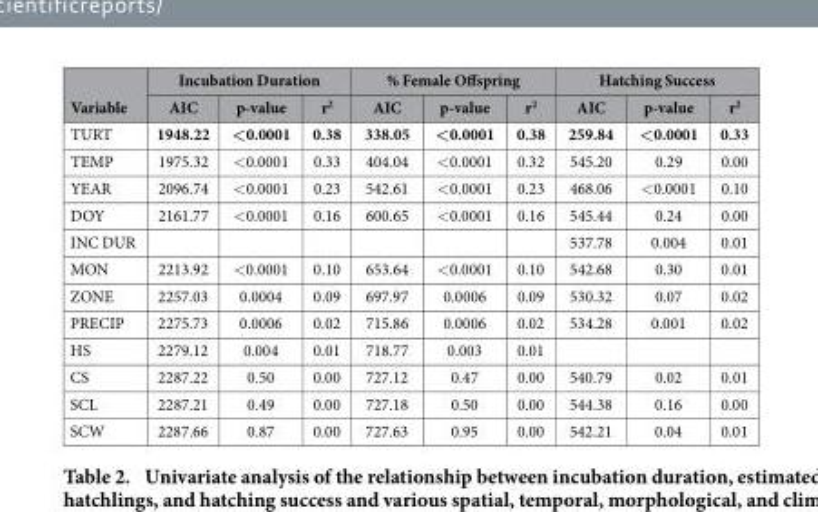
<table><thead><tr><td rowspan="2">Variable</td><td colspan="3">Incubation Duration</td><td colspan="3">% Female Offspring</td><td colspan="3">Hatching Success</td></tr><tr><td>AIC</td><td>p-value</td><td>r<sup>2</sup></td><td>AIC</td><td>p-value</td><td>r<sup>2</sup></td><td>AIC</td><td>p-value</td><td>r<sup>2</sup></td></tr></thead><tbody><tr><td>TURT</td><td>1948.22</td><td>&lt;0.0001</td><td>0.38</td><td>338.05</td><td>&lt;0.0001</td><td>0.38</td><td>259.84</td><td>&lt;0.0001</td><td>0.33</td></tr><tr><td>TEMP</td><td>1975.32</td><td>&lt; 0.0001</td><td>0.33</td><td>404.04</td><td>&lt; 0.0001</td><td>0.32</td><td>545.20</td><td>0.29</td><td>0.00</td></tr><tr><td>YEAR</td><td>2096.74</td><td>&lt; 0.0001</td><td>0.23</td><td>542.61</td><td>&lt; 0.0001</td><td>0.23</td><td>468.06</td><td>&lt; 0.0001</td><td>0.10</td></tr><tr><td>DOY</td><td>2161.77</td><td>&lt; 0.0001</td><td>0.16</td><td>600.65</td><td>&lt; 0.0001</td><td>0.16</td><td>545.44</td><td>0.24</td><td>0.00</td></tr><tr><td>INC DUR</td><td></td><td></td><td></td><td></td><td></td><td></td><td>537.78</td><td>0.004</td><td>0.01</td></tr><tr><td>MON</td><td>2213.92</td><td>&lt; 0.0001</td><td>0.10</td><td>653.64</td><td>&lt; 0.0001</td><td>0.10</td><td>542.68</td><td>0.30</td><td>0.01</td></tr><tr><td>ZONE</td><td>2257.03</td><td>0.0004</td><td>0.09</td><td>697.97</td><td>0.0006</td><td>0.09</td><td>530.32</td><td>0.07</td><td>0.02</td></tr><tr><td>PRECIP</td><td>2275.73</td><td>0.0006</td><td>0.02</td><td>715.86</td><td>0.0006</td><td>0.02</td><td>534.28</td><td>0.001</td><td>0.02</td></tr><tr><td>HS</td><td>2279.12</td><td>0.004</td><td>0.01</td><td>718.77</td><td>0.003</td><td>0.01</td><td></td><td></td><td></td></tr><tr><td>CS</td><td>2287.22</td><td>0.50</td><td>0.00</td><td>727.12</td><td>0.47</td><td>0.00</td><td>540.79</td><td>0.02</td><td>0.01</td></tr><tr><td>SCL</td><td>2287.21</td><td>0.49</td><td>0.00</td><td>727.18</td><td>0.50</td><td>0.00</td><td>544.38</td><td>0.16</td><td>0.00</td></tr><tr><td>SCW</td><td>2287.66</td><td>0.87</td><td>0.00</td><td>727.63</td><td>0.95</td><td>0.00</td><td>542.21</td><td>0.04</td><td>0.01</td></tr></tbody></table>